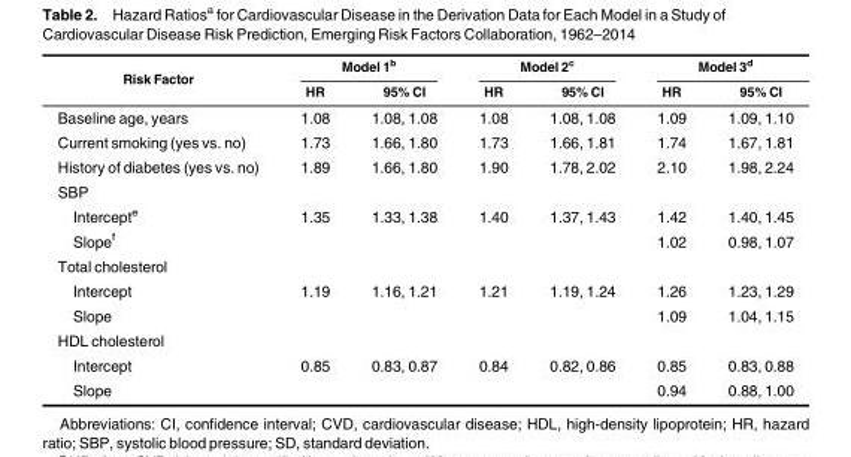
<table><thead><tr><td rowspan="2">Risk Factor</td><td colspan="2">Model 1<sup>b</sup></td><td colspan="2">Model 2<sup>c</sup></td><td colspan="2">Model 3<sup>d</sup></td></tr><tr><td>HR</td><td>95% CI</td><td>HR</td><td>95% CI</td><td>HR</td><td>95% CI</td></tr></thead><tbody><tr><td>Baseline age, years</td><td>1.08</td><td>1.08, 1.08</td><td>1.08</td><td>1.08, 1.08</td><td>1.09</td><td>1.09, 1.10</td></tr><tr><td>Current smoking (yes vs. no)</td><td>1.73</td><td>1.66, 1.80</td><td>1.73</td><td>1.66, 1.81</td><td>1.74</td><td>1.67, 1.81</td></tr><tr><td>History of diabetes (yes vs. no)</td><td>1.89</td><td>1.66, 1.80</td><td>1.90</td><td>1.78, 2.02</td><td>2.10</td><td>1.98, 2.24</td></tr><tr><td colspan="7">SBP</td></tr><tr><td>Intercept<sup>e</sup></td><td>1.35</td><td>1.33, 1.38</td><td>1.40</td><td>1.37, 1.43</td><td>1.42</td><td>1.40, 1.45</td></tr><tr><td>Slope<sup>f</sup></td><td></td><td></td><td></td><td></td><td>1.02</td><td>0.98, 1.07</td></tr><tr><td colspan="7">Total cholesterol</td></tr><tr><td>Intercept</td><td>1.19</td><td>1.16, 1.21</td><td>1.21</td><td>1.19, 1.24</td><td>1.26</td><td>1.23, 1.29</td></tr><tr><td>Slope</td><td></td><td></td><td></td><td></td><td>1.09</td><td>1.04, 1.15</td></tr><tr><td colspan="7">HDL cholesterol</td></tr><tr><td>Intercept</td><td>0.85</td><td>0.83, 0.87</td><td>0.84</td><td>0.82, 0.86</td><td>0.85</td><td>0.83, 0.88</td></tr><tr><td>Slope</td><td></td><td></td><td></td><td></td><td>0.94</td><td>0.88, 1.00</td></tr></tbody></table>